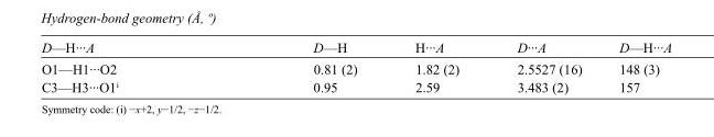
<table><tbody><tr><td>D—H···A</td><td>D—H</td><td>H···A</td><td>D···A</td><td>D—H···A</td></tr><tr><td>O1—H1···O2</td><td>0.81 (2)</td><td>1.82 (2)</td><td>2.5527 (16)</td><td>148 (3)</td></tr><tr><td>C3—H3···O1<sup>i</sup></td><td>0.95</td><td>2.59</td><td>3.483 (2)</td><td>157</td></tr></tbody></table>